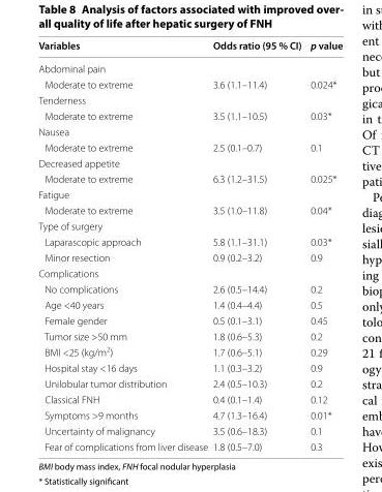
<table><thead><tr><td>Variables</td><td>Odds ratio (95 % CI)</td><td>p value</td></tr></thead><tbody><tr><td colspan="3">Abdominal pain</td></tr><tr><td>Moderate to extreme</td><td>3.6 (1.1–11.4)</td><td>0.024*</td></tr><tr><td colspan="3">Tenderness</td></tr><tr><td>Moderate to extreme</td><td>3.5 (1.1–10.5)</td><td>0.03*</td></tr><tr><td colspan="3">Nausea</td></tr><tr><td>Moderate to extreme</td><td>2.5 (0.1–0.7)</td><td>0.1</td></tr><tr><td colspan="3">Decreased appetite</td></tr><tr><td>Moderate to extreme</td><td>6.3 (1.2–31.5)</td><td>0.025*</td></tr><tr><td colspan="3">Fatigue</td></tr><tr><td>Moderate to extreme</td><td>3.5 (1.0–11.8)</td><td>0.04*</td></tr><tr><td colspan="3">Type of surgery</td></tr><tr><td>Laparascopic approach</td><td>5.8 (1.1–31.1)</td><td>0.03*</td></tr><tr><td>Minor resection</td><td>0.9 (0.2–3.2)</td><td>0.9</td></tr><tr><td colspan="3">Complications</td></tr><tr><td>No complications</td><td>2.6 (0.5–14.4)</td><td>0.2</td></tr><tr><td>Age &lt;40 years</td><td>1.4 (0.4–4.4)</td><td>0.5</td></tr><tr><td>Female gender</td><td>0.5 (0.1–3.1)</td><td>0.45</td></tr><tr><td>Tumor size &gt;50 mm</td><td>1.8 (0.6–5.3)</td><td>0.2</td></tr><tr><td>BMI &lt;25 (kg/m<sup>2</sup>)</td><td>1.7 (0.6–5.1)</td><td>0.29</td></tr><tr><td>Hospital stay &lt;16 days</td><td>1.1 (0.3–3.2)</td><td>0.9</td></tr><tr><td>Unilobular tumor distribution</td><td>2.4 (0.5–10.3)</td><td>0.2</td></tr><tr><td>Classical FNH</td><td>0.4 (0.1–1.4)</td><td>0.12</td></tr><tr><td>Symptoms &gt;9 months</td><td>4.7 (1.3–16.4)</td><td>0.01*</td></tr><tr><td>Uncertainty of malignancy</td><td>3.5 (0.6–18.3)</td><td>0.1</td></tr><tr><td>Fear of complications from liver disease</td><td>1.8 (0.5–7.0)</td><td>0.3</td></tr></tbody></table>